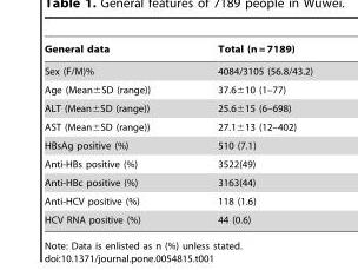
<table><thead><tr><td>General data</td><td>Total (n = 7189)</td></tr></thead><tbody><tr><td>Sex (F/M)%</td><td>4084/3105 (56.8/43.2)</td></tr><tr><td>Age (Mean±SD (range))</td><td>37.6±10 (1–77)</td></tr><tr><td>ALT (Mean±SD (range))</td><td>25.6±15 (6–698)</td></tr><tr><td>AST (Mean±SD (range))</td><td>27.1±13 (12–402)</td></tr><tr><td>HBsAg positive (%)</td><td>510 (7.1)</td></tr><tr><td>Anti-HBs positive (%)</td><td>3522(49)</td></tr><tr><td>Anti-HBc positive (%)</td><td>3163(44)</td></tr><tr><td>Anti-HCV positive (%)</td><td>118 (1.6)</td></tr><tr><td>HCV RNA positive (%)</td><td>44 (0.6)</td></tr></tbody></table>